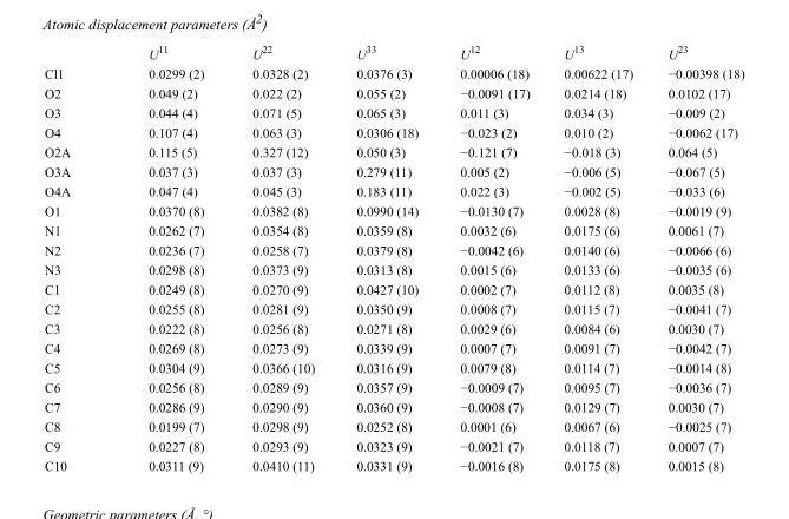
<table><thead><tr><td></td><td>U<sup>11</sup></td><td>U<sup>22</sup></td><td>U<sup>33</sup></td><td>U<sup>12</sup></td><td>U<sup>13</sup></td><td>U<sup>23</sup></td></tr></thead><tbody><tr><td>Cl1</td><td>0.0299 (2)</td><td>0.0328 (2)</td><td>0.0376 (3)</td><td>0.00006 (18)</td><td>0.00622 (17)</td><td>−0.00398 (18)</td></tr><tr><td>O2</td><td>0.049 (2)</td><td>0.022 (2)</td><td>0.055 (2)</td><td>−0.0091 (17)</td><td>0.0214 (18)</td><td>0.0102 (17)</td></tr><tr><td>O3</td><td>0.044 (4)</td><td>0.071 (5)</td><td>0.065 (3)</td><td>0.011 (3)</td><td>0.034 (3)</td><td>−0.009 (2)</td></tr><tr><td>O4</td><td>0.107 (4)</td><td>0.063 (3)</td><td>0.0306 (18)</td><td>−0.023 (2)</td><td>0.010 (2)</td><td>−0.0062 (17)</td></tr><tr><td>O2A</td><td>0.115 (5)</td><td>0.327 (12)</td><td>0.050 (3)</td><td>−0.121 (7)</td><td>−0.018 (3)</td><td>0.064 (5)</td></tr><tr><td>O3A</td><td>0.037 (3)</td><td>0.037 (3)</td><td>0.279 (11)</td><td>0.005 (2)</td><td>−0.006 (5)</td><td>−0.067 (5)</td></tr><tr><td>O4A</td><td>0.047 (4)</td><td>0.045 (3)</td><td>0.183 (11)</td><td>0.022 (3)</td><td>−0.002 (5)</td><td>−0.033 (6)</td></tr><tr><td>O1</td><td>0.0370 (8)</td><td>0.0382 (8)</td><td>0.0990 (14)</td><td>−0.0130 (7)</td><td>0.0028 (8)</td><td>−0.0019 (9)</td></tr><tr><td>N1</td><td>0.0262 (7)</td><td>0.0354 (8)</td><td>0.0359 (8)</td><td>0.0032 (6)</td><td>0.0175 (6)</td><td>0.0061 (7)</td></tr><tr><td>N2</td><td>0.0236 (7)</td><td>0.0258 (7)</td><td>0.0379 (8)</td><td>−0.0042 (6)</td><td>0.0140 (6)</td><td>−0.0066 (6)</td></tr><tr><td>N3</td><td>0.0298 (8)</td><td>0.0373 (9)</td><td>0.0313 (8)</td><td>0.0015 (6)</td><td>0.0133 (6)</td><td>−0.0035 (6)</td></tr><tr><td>C1</td><td>0.0249 (8)</td><td>0.0270 (9)</td><td>0.0427 (10)</td><td>0.0002 (7)</td><td>0.0112 (8)</td><td>0.0035 (8)</td></tr><tr><td>C2</td><td>0.0255 (8)</td><td>0.0281 (9)</td><td>0.0350 (9)</td><td>0.0008 (7)</td><td>0.0115 (7)</td><td>−0.0041 (7)</td></tr><tr><td>C3</td><td>0.0222 (8)</td><td>0.0256 (8)</td><td>0.0271 (8)</td><td>0.0029 (6)</td><td>0.0084 (6)</td><td>0.0030 (7)</td></tr><tr><td>C4</td><td>0.0269 (8)</td><td>0.0273 (9)</td><td>0.0339 (9)</td><td>0.0007 (7)</td><td>0.0091 (7)</td><td>−0.0042 (7)</td></tr><tr><td>C5</td><td>0.0304 (9)</td><td>0.0366 (10)</td><td>0.0316 (9)</td><td>0.0079 (8)</td><td>0.0114 (7)</td><td>−0.0014 (8)</td></tr><tr><td>C6</td><td>0.0256 (8)</td><td>0.0289 (9)</td><td>0.0357 (9)</td><td>−0.0009 (7)</td><td>0.0095 (7)</td><td>−0.0036 (7)</td></tr><tr><td>C7</td><td>0.0286 (9)</td><td>0.0290 (9)</td><td>0.0360 (9)</td><td>−0.0008 (7)</td><td>0.0129 (7)</td><td>0.0030 (7)</td></tr><tr><td>C8</td><td>0.0199 (7)</td><td>0.0298 (9)</td><td>0.0252 (8)</td><td>0.0001 (6)</td><td>0.0067 (6)</td><td>−0.0025 (7)</td></tr><tr><td>C9</td><td>0.0227 (8)</td><td>0.0293 (9)</td><td>0.0323 (9)</td><td>−0.0021 (7)</td><td>0.0118 (7)</td><td>0.0007 (7)</td></tr><tr><td>C10</td><td>0.0311 (9)</td><td>0.0410 (11)</td><td>0.0331 (9)</td><td>−0.0016 (8)</td><td>0.0175 (8)</td><td>0.0015 (8)</td></tr></tbody></table>